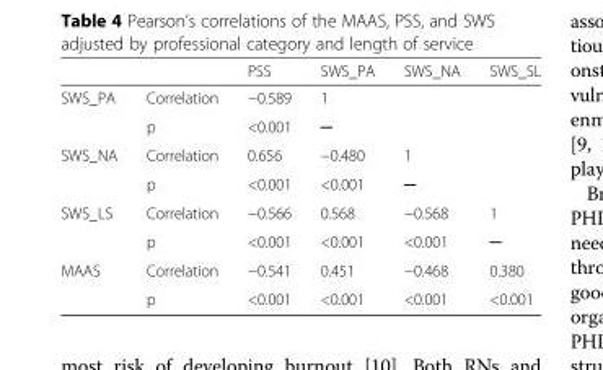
<table><thead><tr><td></td><td></td><td>PSS</td><td>SWS_PA</td><td>SWS_NA</td><td>SWS_SL</td></tr></thead><tbody><tr><td rowspan="2">SWS_PA</td><td>Correlation</td><td>−0.589</td><td>1</td><td></td><td></td></tr><tr><td>p</td><td>&lt;0.001</td><td>─</td><td></td><td></td></tr><tr><td rowspan="2">SWS_NA</td><td>Correlation</td><td>0.656</td><td>−0.480</td><td>1</td><td></td></tr><tr><td>p</td><td>&lt;0.001</td><td>&lt;0.001</td><td>─</td><td></td></tr><tr><td rowspan="2">SWS_LS</td><td>Correlation</td><td>−0.566</td><td>0.568</td><td>−0.568</td><td>1</td></tr><tr><td>p</td><td>&lt;0.001</td><td>&lt;0.001</td><td>&lt;0.001</td><td>─</td></tr><tr><td rowspan="2">MAAS</td><td>Correlation</td><td>−0.541</td><td>0.451</td><td>−0.468</td><td>0.380</td></tr><tr><td>p</td><td>&lt;0.001</td><td>&lt;0.001</td><td>&lt;0.001</td><td>&lt;0.001</td></tr></tbody></table>